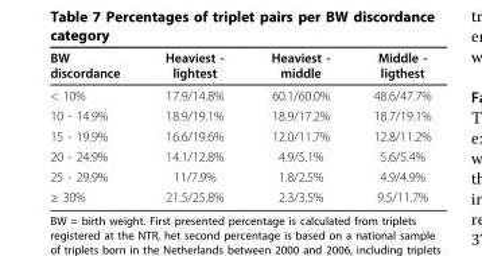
<table><thead><tr><td>BW discordance</td><td>Heaviest - lightest</td><td>Heaviest - middle</td><td>Middle - ligthest</td></tr></thead><tbody><tr><td>&lt; 10%</td><td>17.9/14.8%</td><td>60.1/60.0%</td><td>48.6/47.7%</td></tr><tr><td>10 - 14.9%</td><td>18.9/19.1%</td><td>18.9/17.2%</td><td>18.7/19.1%</td></tr><tr><td>15 - 19.9%</td><td>16.6/19.6%</td><td>12.0/11.7%</td><td>12.8/11.2%</td></tr><tr><td>20 - 24.9%</td><td>14.1/12.8%</td><td>4.9/5.1%</td><td>5.6/5.4%</td></tr><tr><td>25 - 29.9%</td><td>11/7.9%</td><td>1.8/2.5%</td><td>4.9/4.9%</td></tr><tr><td>≥ 30%</td><td>21.5/25.8%</td><td>2.3/3.5%</td><td>9.5/11.7%</td></tr></tbody></table>